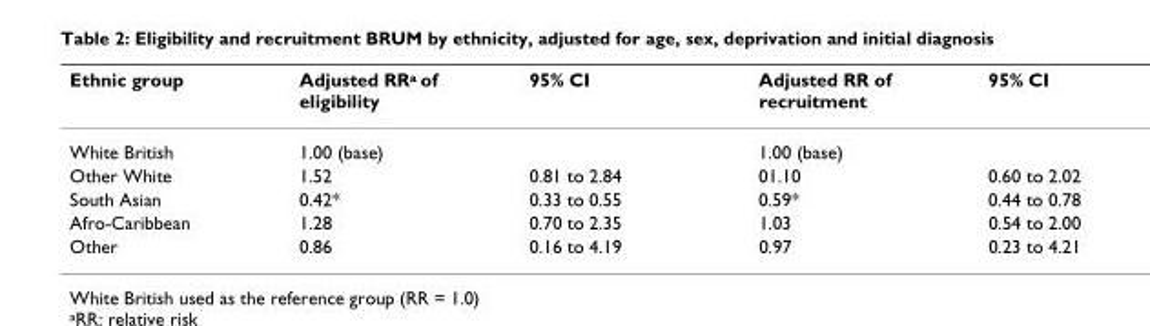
<table><thead><tr><td>Ethnic group</td><td>Adjusted RR<sup>a</sup> of eligibility</td><td>95% CI</td><td>Adjusted RR of recruitment</td><td>95% CI</td></tr></thead><tbody><tr><td>White British</td><td>1.00 (base)</td><td></td><td>1.00 (base)</td><td></td></tr><tr><td>Other White</td><td>1.52</td><td>0.81 to 2.84</td><td>01.10</td><td>0.60 to 2.02</td></tr><tr><td>South Asian</td><td>0.42*</td><td>0.33 to 0.55</td><td>0.59*</td><td>0.44 to 0.78</td></tr><tr><td>Afro-Caribbean</td><td>1.28</td><td>0.70 to 2.35</td><td>1.03</td><td>0.54 to 2.00</td></tr><tr><td>Other</td><td>0.86</td><td>0.16 to 4.19</td><td>0.97</td><td>0.23 to 4.21</td></tr></tbody></table>